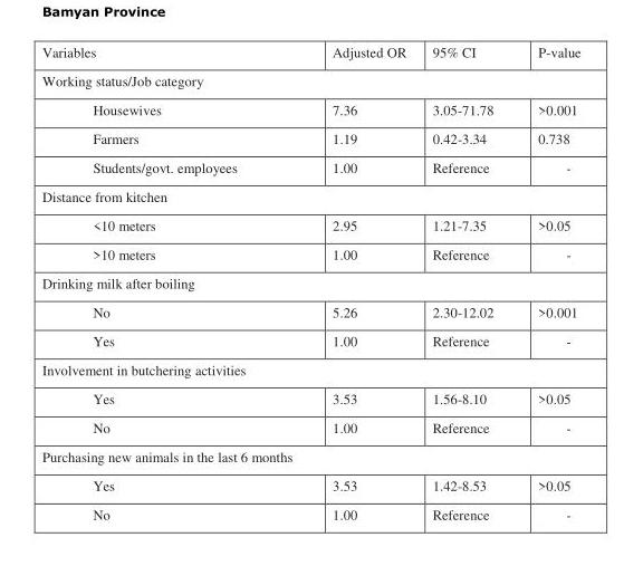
<table><thead><tr><td>Variables</td><td>Adjusted OR</td><td>95% CI</td><td>P-value</td></tr></thead><tbody><tr><td colspan="4">Working status/Job category</td></tr><tr><td>Housewives</td><td>7.36</td><td>3.05-71.78</td><td>&gt;0.001</td></tr><tr><td>Farmers</td><td>1.19</td><td>0.42-3.34</td><td>0.738</td></tr><tr><td>Students/govt. employees</td><td>1.00</td><td>Reference</td><td>-</td></tr><tr><td colspan="4">Distance from kitchen</td></tr><tr><td>&lt;10 meters</td><td>2.95</td><td>1.21-7.35</td><td>&gt;0.05</td></tr><tr><td>&gt;10 meters</td><td>1.00</td><td>Reference</td><td>-</td></tr><tr><td colspan="4">Drinking milk after boiling</td></tr><tr><td>No</td><td>5.26</td><td>2.30-12.02</td><td>&gt;0.001</td></tr><tr><td>Yes</td><td>1.00</td><td>Reference</td><td>-</td></tr><tr><td colspan="4">Involvement in butchering activities</td></tr><tr><td>Yes</td><td>3.53</td><td>1.56-8.10</td><td>&gt;0.05</td></tr><tr><td>No</td><td>1.00</td><td>Reference</td><td>-</td></tr><tr><td colspan="4">Purchasing new animals in the last 6 months</td></tr><tr><td>Yes</td><td>3.53</td><td>1.42-8.53</td><td>&gt;0.05</td></tr><tr><td>No</td><td>1.00</td><td>Reference</td><td>-</td></tr></tbody></table>